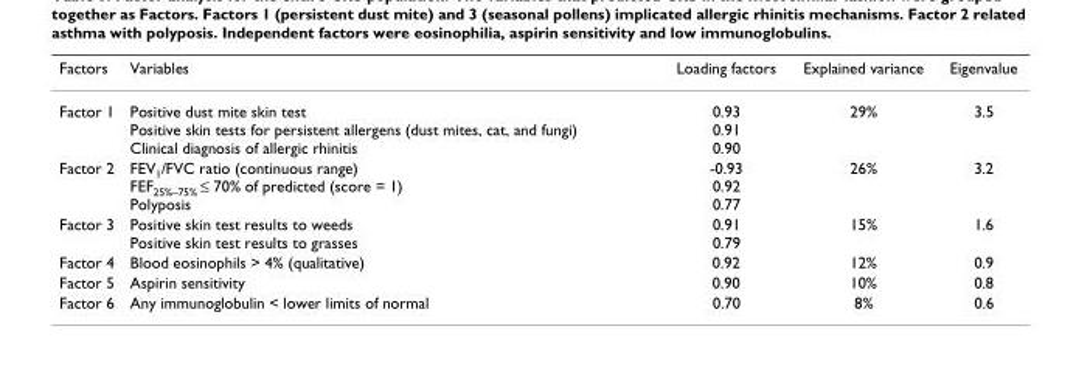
<table><thead><tr><td>Factors</td><td>Variables</td><td>Loading factors</td><td>Explained variance</td><td>Eigenvalue</td></tr></thead><tbody><tr><td>Factor 1</td><td>Positive dust mite skin test Positive skin tests for persistent allergens (dust mites, cat, and fungi) Clinical diagnosis of allergic rhinitis</td><td>0.93 0.91 0.90</td><td>29%</td><td>3.5</td></tr><tr><td>Factor 2</td><td>FEV<sub>1</sub>/FVC ratio (continuous range) FEF<sub>25%–75%</sub> ≤ 70% of predicted (score = 1) Polyposis</td><td>-0.93 0.92 0.77</td><td>26%</td><td>3.2</td></tr><tr><td>Factor 3</td><td>Positive skin test results to weeds Positive skin test results to grasses</td><td>0.91 0.79</td><td>15%</td><td>1.6</td></tr><tr><td>Factor 4</td><td>Blood eosinophils &gt; 4% (qualitative)</td><td>0.92</td><td>12%</td><td>0.9</td></tr><tr><td>Factor 5</td><td>Aspirin sensitivity</td><td>0.90</td><td>10%</td><td>0.8</td></tr><tr><td>Factor 6</td><td>Any immunoglobulin &lt; lower limits of normal</td><td>0.70</td><td>8%</td><td>0.6</td></tr></tbody></table>